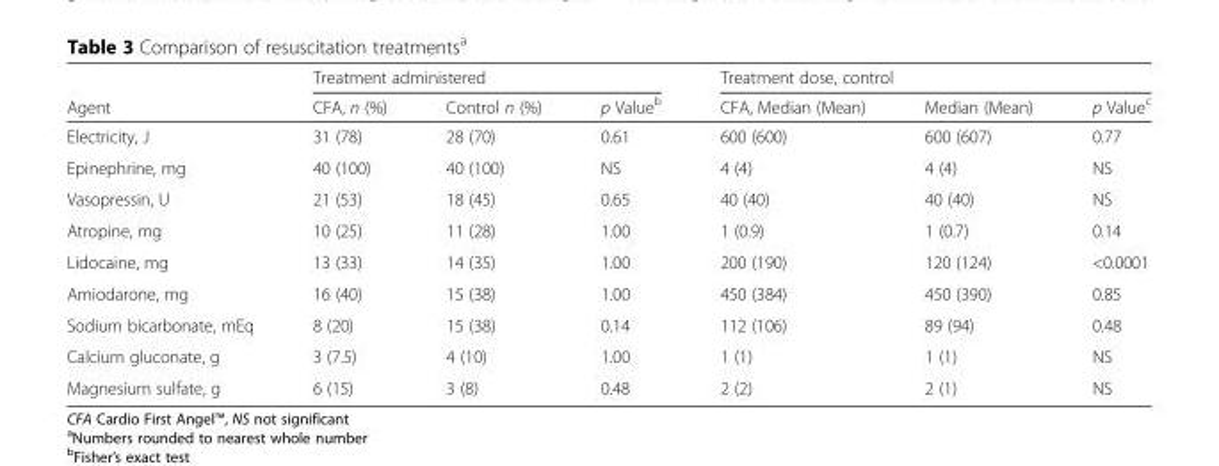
<table><thead><tr><td rowspan="2">Agent</td><td colspan="3">Treatment administered</td><td colspan="3">Treatment dose, control</td></tr><tr><td>CFA, n (%)</td><td>Control n (%)</td><td>p Value<sup>b</sup></td><td>CFA, Median (Mean)</td><td>Median (Mean)</td><td>p Value<sup>c</sup></td></tr></thead><tbody><tr><td>Electricity, J</td><td>31 (78)</td><td>28 (70)</td><td>0.61</td><td>600 (600)</td><td>600 (607)</td><td>0.77</td></tr><tr><td>Epinephrine, mg</td><td>40 (100)</td><td>40 (100)</td><td>NS</td><td>4 (4)</td><td>4 (4)</td><td>NS</td></tr><tr><td>Vasopressin, U</td><td>21 (53)</td><td>18 (45)</td><td>0.65</td><td>40 (40)</td><td>40 (40)</td><td>NS</td></tr><tr><td>Atropine, mg</td><td>10 (25)</td><td>11 (28)</td><td>1.00</td><td>1 (0.9)</td><td>1 (0.7)</td><td>0.14</td></tr><tr><td>Lidocaine, mg</td><td>13 (33)</td><td>14 (35)</td><td>1.00</td><td>200 (190)</td><td>120 (124)</td><td>&lt;0.0001</td></tr><tr><td>Amiodarone, mg</td><td>16 (40)</td><td>15 (38)</td><td>1.00</td><td>450 (384)</td><td>450 (390)</td><td>0.85</td></tr><tr><td>Sodium bicarbonate, mEq</td><td>8 (20)</td><td>15 (38)</td><td>0.14</td><td>112 (106)</td><td>89 (94)</td><td>0.48</td></tr><tr><td>Calcium gluconate, g</td><td>3 (7.5)</td><td>4 (10)</td><td>1.00</td><td>1 (1)</td><td>1 (1)</td><td>NS</td></tr><tr><td>Magnesium sulfate, g</td><td>6 (15)</td><td>3 (8)</td><td>0.48</td><td>2 (2)</td><td>2 (1)</td><td>NS</td></tr></tbody></table>